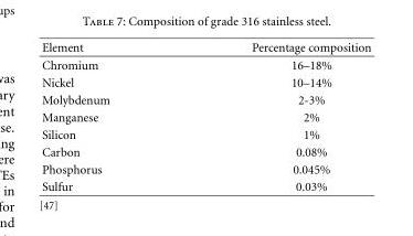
<table><thead><tr><td>Element</td><td>Percentage composition</td></tr></thead><tbody><tr><td>Chromium</td><td>16–18%</td></tr><tr><td>Nickel</td><td>10–14%</td></tr><tr><td>Molybdenum</td><td>2-3%</td></tr><tr><td>Manganese</td><td>2%</td></tr><tr><td>Silicon</td><td>1%</td></tr><tr><td>Carbon</td><td>0.08%</td></tr><tr><td>Phosphorus</td><td>0.045%</td></tr><tr><td>Sulfur</td><td>0.03%</td></tr></tbody></table>